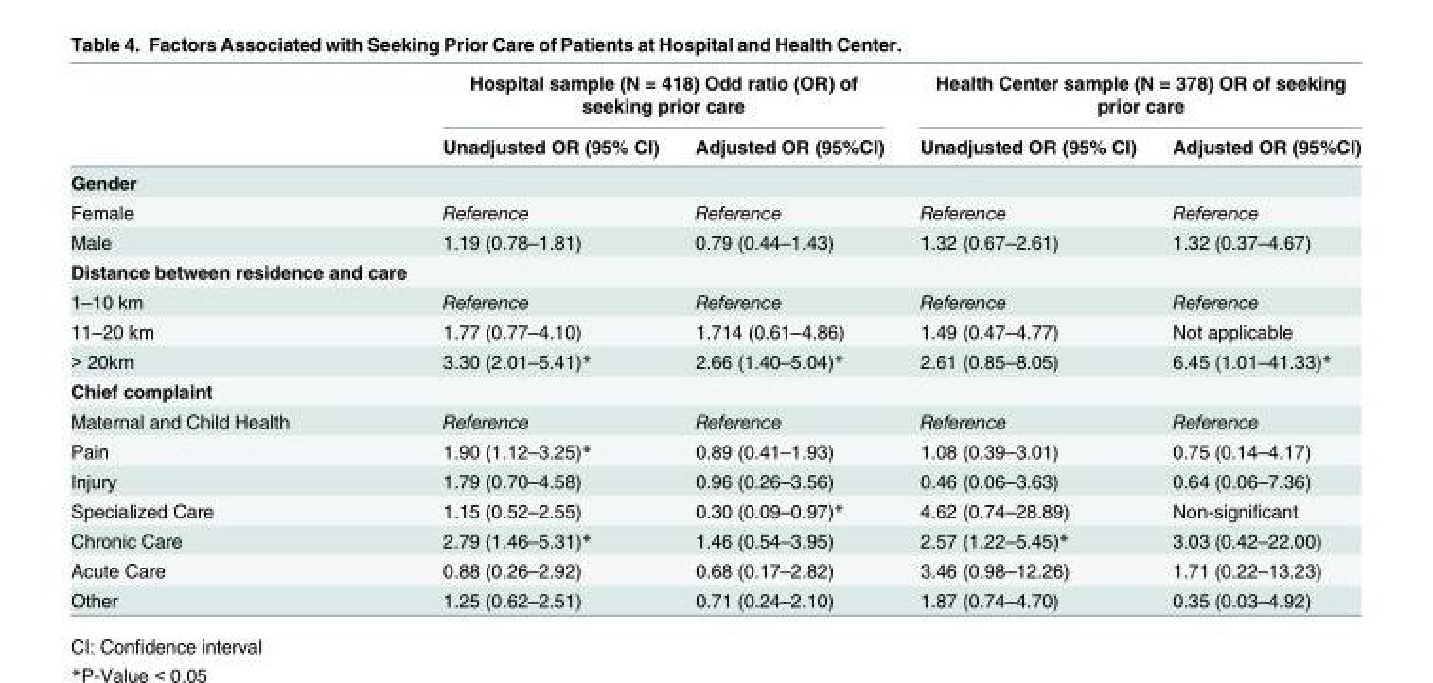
<table><thead><tr><td rowspan="2"></td><td colspan="2">Hospital sample (N = 418) Odd ratio (OR) of seeking prior care</td><td colspan="2">Health Center sample (N = 378) OR of seeking prior care</td></tr><tr><td>Unadjusted OR (95% CI)</td><td>Adjusted OR (95%CI)</td><td>Unadjusted OR (95% CI)</td><td>Adjusted OR (95%CI)</td></tr></thead><tbody><tr><td colspan="5">Gender</td></tr><tr><td>Female</td><td>Reference</td><td>Reference</td><td>Reference</td><td>Reference</td></tr><tr><td>Male</td><td>1.19 (0.78–1.81)</td><td>0.79 (0.44–1.43)</td><td>1.32 (0.67–2.61)</td><td>1.32 (0.37–4.67)</td></tr><tr><td colspan="5">Distance between residence and care</td></tr><tr><td>1–10 km</td><td>Reference</td><td>Reference</td><td>Reference</td><td>Reference</td></tr><tr><td>11–20 km</td><td>1.77 (0.77–4.10)</td><td>1.714 (0.61–4.86)</td><td>1.49 (0.47–4.77)</td><td>Not applicable</td></tr><tr><td>&gt; 20km</td><td>3.30 (2.01–5.41)*</td><td>2.66 (1.40–5.04)*</td><td>2.61 (0.85–8.05)</td><td>6.45 (1.01–41.33)*</td></tr><tr><td colspan="5">Chief complaint</td></tr><tr><td>Maternal and Child Health</td><td>Reference</td><td>Reference</td><td>Reference</td><td>Reference</td></tr><tr><td>Pain</td><td>1.90 (1.12–3.25)*</td><td>0.89 (0.41–1.93)</td><td>1.08 (0.39–3.01)</td><td>0.75 (0.14–4.17)</td></tr><tr><td>Injury</td><td>1.79 (0.70–4.58)</td><td>0.96 (0.26–3.56)</td><td>0.46 (0.06–3.63)</td><td>0.64 (0.06–7.36)</td></tr><tr><td>Specialized Care</td><td>1.15 (0.52–2.55)</td><td>0.30 (0.09–0.97)*</td><td>4.62 (0.74–28.89)</td><td>Non-significant</td></tr><tr><td>Chronic Care</td><td>2.79 (1.46–5.31)*</td><td>1.46 (0.54–3.95)</td><td>2.57 (1.22–5.45)*</td><td>3.03 (0.42–22.00)</td></tr><tr><td>Acute Care</td><td>0.88 (0.26–2.92)</td><td>0.68 (0.17–2.82)</td><td>3.46 (0.98–12.26)</td><td>1.71 (0.22–13.23)</td></tr><tr><td>Other</td><td>1.25 (0.62–2.51)</td><td>0.71 (0.24–2.10)</td><td>1.87 (0.74–4.70)</td><td>0.35 (0.03–4.92)</td></tr></tbody></table>